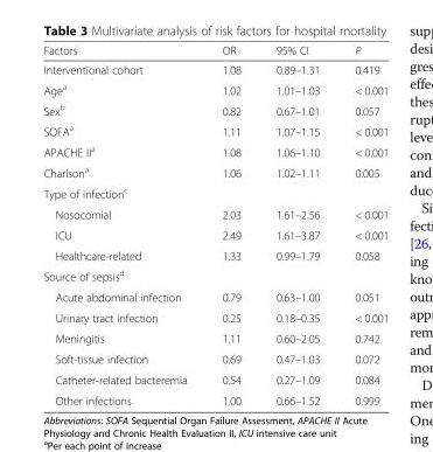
<table><thead><tr><td>Factors</td><td>OR</td><td>95% CI</td><td>P</td></tr></thead><tbody><tr><td>Interventional cohort</td><td>1.08</td><td>0.89–1.31</td><td>0.419</td></tr><tr><td>Age<sup>a</sup></td><td>1.02</td><td>1.01–1.03</td><td>&lt; 0.001</td></tr><tr><td>Sex<sup>b</sup></td><td>0.82</td><td>0.67–1.01</td><td>0.057</td></tr><tr><td>SOFA<sup>a</sup></td><td>1.11</td><td>1.07–1.15</td><td>&lt; 0.001</td></tr><tr><td>APACHE II<sup>a</sup></td><td>1.08</td><td>1.06–1.10</td><td>&lt; 0.001</td></tr><tr><td>Charlson<sup>a</sup></td><td>1.06</td><td>1.02–1.11</td><td>0.005</td></tr><tr><td colspan="4">Type of infection<sup>c</sup></td></tr><tr><td>Nosocomial</td><td>2.03</td><td>1.61–2.56</td><td>&lt; 0.001</td></tr><tr><td>ICU</td><td>2.49</td><td>1.61–3.87</td><td>&lt; 0.001</td></tr><tr><td>Healthcare-related</td><td>1.33</td><td>0.99–1.79</td><td>0.058</td></tr><tr><td colspan="4">Source of sepsis<sup>d</sup></td></tr><tr><td>Acute abdominal infection</td><td>0.79</td><td>0.63–1.00</td><td>0.051</td></tr><tr><td>Urinary tract infection</td><td>0.25</td><td>0.18–0.35</td><td>&lt; 0.001</td></tr><tr><td>Meningitis</td><td>1.11</td><td>0.60–2.05</td><td>0.742</td></tr><tr><td>Soft-tissue infection</td><td>0.69</td><td>0.47–1.03</td><td>0.072</td></tr><tr><td>Catheter-related bacteremia</td><td>0.54</td><td>0.27–1.09</td><td>0.084</td></tr><tr><td>Other infections</td><td>1.00</td><td>0.66–1.52</td><td>0.999</td></tr></tbody></table>